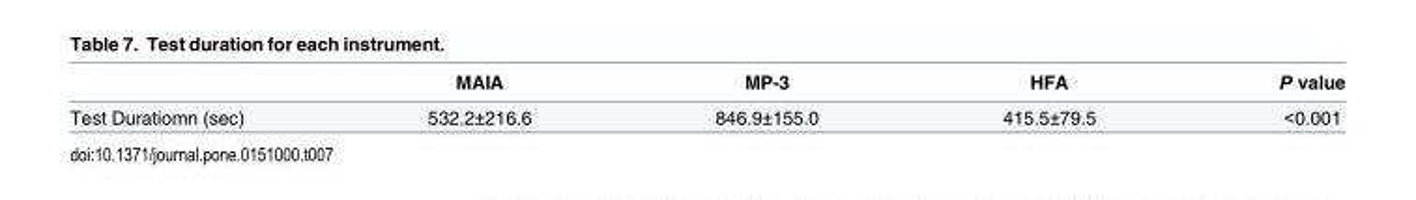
<table><thead><tr><td></td><td>MAIA</td><td>MP-3</td><td>HFA</td><td>P value</td></tr></thead><tbody><tr><td>Test Duratiomn (sec)</td><td>532.2±216.6</td><td>846.9±155.0</td><td>415.5±79.5</td><td>&lt;0.001</td></tr></tbody></table>